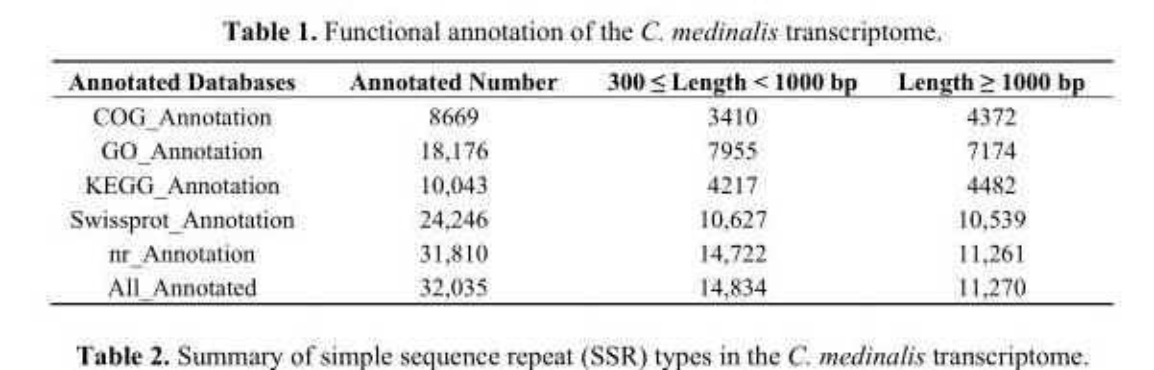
<table><thead><tr><td>Annotated Databases</td><td>Annotated Number</td><td>300 ≤ Length &lt; 1000 bp</td><td>Length ≥ 1000 bp</td></tr></thead><tbody><tr><td>COG_Annotation</td><td>8669</td><td>3410</td><td>4372</td></tr><tr><td>GO_Annotation</td><td>18,176</td><td>7955</td><td>7174</td></tr><tr><td>KEGG_Annotation</td><td>10,043</td><td>4217</td><td>4482</td></tr><tr><td>Swissprot_Annotation</td><td>24,246</td><td>10,627</td><td>10,539</td></tr><tr><td>nr_Annotation</td><td>31,810</td><td>14,722</td><td>11,261</td></tr><tr><td>All_Annotated</td><td>32,035</td><td>14,834</td><td>11,270</td></tr></tbody></table>